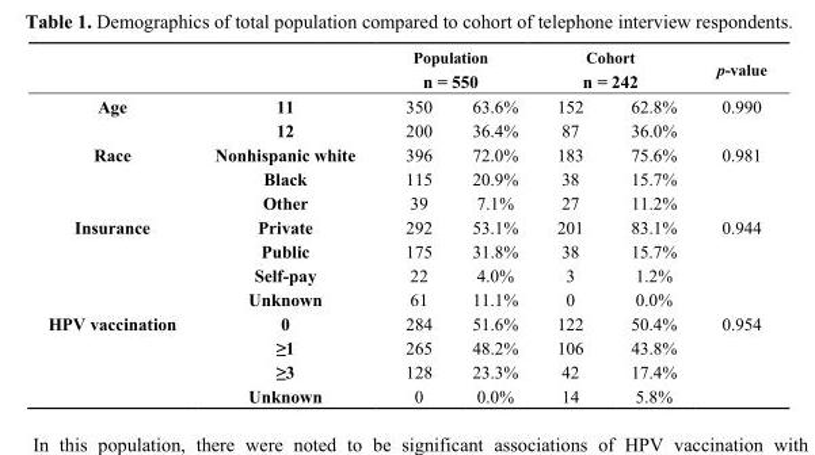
<table><thead><tr><td rowspan="3">Age</td><td rowspan="3">11</td><td rowspan="2" colspan="2">Population n = 550</td><td rowspan="2" colspan="2">Cohort n = 242</td><td rowspan="3">p-value 0.990</td></tr><tr></tr><tr><td>350</td><td>63.6%</td><td>152</td><td>62.8%</td></tr></thead><tbody><tr><td></td><td>12</td><td>200</td><td>36.4%</td><td>87</td><td>36.0%</td><td></td></tr><tr><td rowspan="3">Race</td><td>Nonhispanic white</td><td>396</td><td>72.0%</td><td>183</td><td>75.6%</td><td>0.981</td></tr><tr><td>Black</td><td>115</td><td>20.9%</td><td>38</td><td>15.7%</td><td></td></tr><tr><td>Other</td><td>39</td><td>7.1%</td><td>27</td><td>11.2%</td><td></td></tr><tr><td rowspan="4">Insurance</td><td>Private</td><td>292</td><td>53.1%</td><td>201</td><td>83.1%</td><td>0.944</td></tr><tr><td>Public</td><td>175</td><td>31.8%</td><td>38</td><td>15.7%</td><td></td></tr><tr><td>Self-pay</td><td>22</td><td>4.0%</td><td>3</td><td>1.2%</td><td></td></tr><tr><td>Unknown</td><td>61</td><td>11.1%</td><td>0</td><td>0.0%</td><td></td></tr><tr><td rowspan="4">HPV vaccination</td><td>0</td><td>284</td><td>51.6%</td><td>122</td><td>50.4%</td><td>0.954</td></tr><tr><td>≥1</td><td>265</td><td>48.2%</td><td>106</td><td>43.8%</td><td></td></tr><tr><td>≥3</td><td>128</td><td>23.3%</td><td>42</td><td>17.4%</td><td></td></tr><tr><td>Unknown</td><td>0</td><td>0.0%</td><td>14</td><td>5.8%</td><td></td></tr></tbody></table>